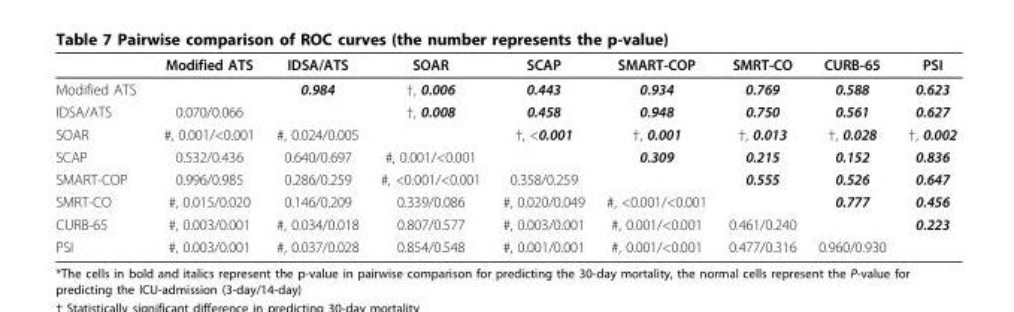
<table><thead><tr><td></td><td>Modified ATS</td><td>IDSA/ATS</td><td>SOAR</td><td>SCAP</td><td>SMART-COP</td><td>SMRT-CO</td><td>CURB-65</td><td>PSI</td></tr></thead><tbody><tr><td>Modified ATS</td><td></td><td>0.984</td><td>†, 0.006</td><td>0.443</td><td>0.934</td><td>0.769</td><td>0.588</td><td>0.623</td></tr><tr><td>IDSA/ATS</td><td>0.070/0.066</td><td></td><td>†, 0.008</td><td>0.458</td><td>0.948</td><td>0.750</td><td>0.561</td><td>0.627</td></tr><tr><td>SOAR</td><td>#, 0.001/&lt;0.001</td><td>#, 0.024/0.005</td><td></td><td>†, &lt;0.001</td><td>†, 0.001</td><td>†, 0.013</td><td>†, 0.028</td><td>†, 0.002</td></tr><tr><td>SCAP</td><td>0.532/0.436</td><td>0.640/0.697</td><td>#, 0.001/&lt;0.001</td><td></td><td>0.309</td><td>0.215</td><td>0.152</td><td>0.836</td></tr><tr><td>SMART-COP</td><td>0.996/0.985</td><td>0.286/0.259</td><td>#, &lt;0.001/&lt;0.001</td><td>0.358/0.259</td><td></td><td>0.555</td><td>0.526</td><td>0.647</td></tr><tr><td>SMRT-CO</td><td>#, 0.015/0.020</td><td>0.146/0.209</td><td>0.339/0.086</td><td>#, 0.020/0.049</td><td>#, &lt;0.001/&lt;0.001</td><td></td><td>0.777</td><td>0.456</td></tr><tr><td>CURB-65</td><td>#, 0.003/0.001</td><td>#, 0.034/0.018</td><td>0.807/0.577</td><td>#, 0.003/0.001</td><td>#, 0.001/&lt;0.001</td><td>0.461/0.240</td><td></td><td>0.223</td></tr><tr><td>PSI</td><td>#, 0.003/0.001</td><td>#, 0.037/0.028</td><td>0.854/0.548</td><td>#, 0.001/0.001</td><td>#, 0.001/&lt;0.001</td><td>0.477/0.316</td><td>0.960/0.930</td><td></td></tr></tbody></table>